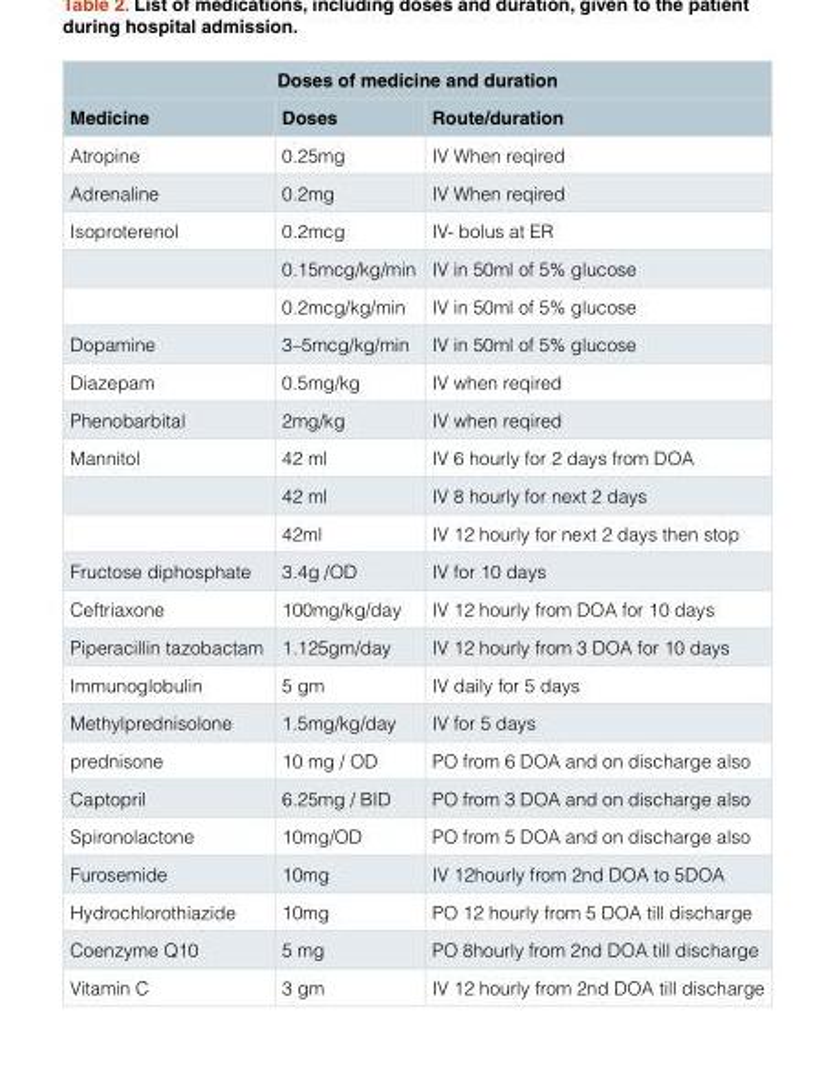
<table><thead><tr><td colspan="3">Doses of medicine and duration</td></tr><tr><td>Medicine</td><td>Doses</td><td>Route/duration</td></tr></thead><tbody><tr><td>Atropine</td><td>0.25mg</td><td>IV When reqired</td></tr><tr><td>Adrenaline</td><td>0.2mg</td><td>IV When reqired</td></tr><tr><td rowspan="3">Isoproterenol</td><td>0.2mcg</td><td>IV- bolus at ER</td></tr><tr><td>0.15mcg/kg/min</td><td>IV in 50ml of 5% glucose</td></tr><tr><td>0.2mcg/kg/min</td><td>IV in 50ml of 5% glucose</td></tr><tr><td>Dopamine</td><td>3–5mcg/kg/min</td><td>IV in 50ml of 5% glucose</td></tr><tr><td>Diazepam</td><td>0.5mg/kg</td><td>IV when reqired</td></tr><tr><td>Phenobarbital</td><td>2mg/kg</td><td>IV when reqired</td></tr><tr><td rowspan="3">Mannitol</td><td>42 ml</td><td>IV 6 hourly for 2 days from DOA</td></tr><tr><td>42 ml</td><td>IV 8 hourly for next 2 days</td></tr><tr><td>42ml</td><td>IV 12 hourly for next 2 days then stop</td></tr><tr><td>Fructose diphosphate</td><td>3.4g /OD</td><td>IV for 10 days</td></tr><tr><td>Ceftriaxone</td><td>100mg/kg/day</td><td>IV 12 hourly from DOA for 10 days</td></tr><tr><td>Piperacillin tazobactam</td><td>1.125gm/day</td><td>IV 12 hourly from 3 DOA for 10 days</td></tr><tr><td>Immunoglobulin</td><td>5 gm</td><td>IV daily for 5 days</td></tr><tr><td>Methylprednisolone</td><td>1.5mg/kg/day</td><td>IV for 5 days</td></tr><tr><td>prednisone</td><td>10 mg / OD</td><td>PO from 6 DOA and on discharge also</td></tr><tr><td>Captopril</td><td>6.25mg / BID</td><td>PO from 3 DOA and on discharge also</td></tr><tr><td>Spironolactone</td><td>10mg/OD</td><td>PO from 5 DOA and on discharge also</td></tr><tr><td>Furosemide</td><td>10mg</td><td>IV 12hourly from 2nd DOA to 5DOA</td></tr><tr><td>Hydrochlorothiazide</td><td>10mg</td><td>PO 12 hourly from 5 DOA till discharge</td></tr><tr><td>Coenzyme Q10</td><td>5 mg</td><td>PO 8hourly from 2nd DOA till discharge</td></tr><tr><td>Vitamin C</td><td>3 gm</td><td>IV 12 hourly from 2nd DOA till discharge</td></tr></tbody></table>